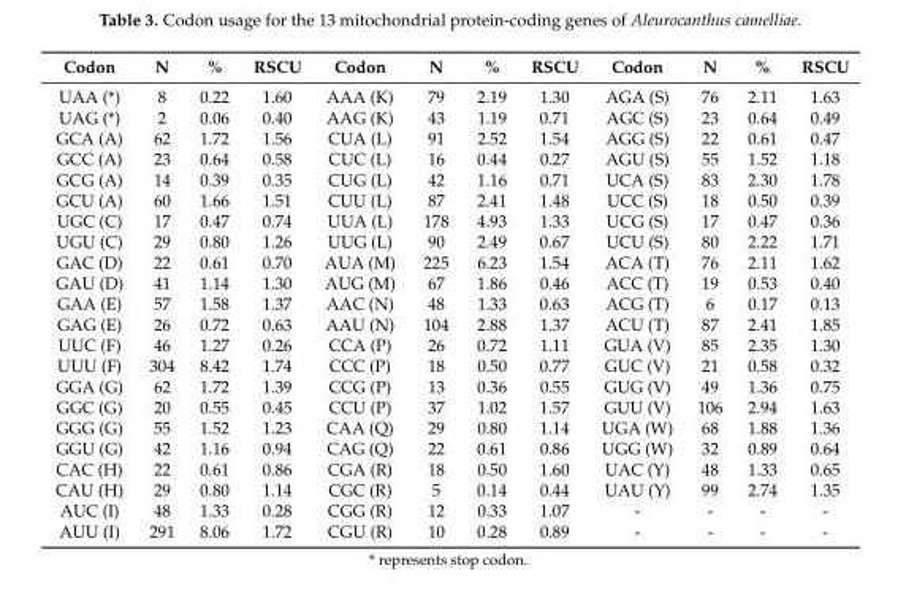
<table><thead><tr><td>Codon</td><td>N</td><td>%</td><td>RSCU</td><td>Codon</td><td>N</td><td>%</td><td>RSCU</td><td>Codon</td><td>N</td><td>%</td><td>RSCU</td></tr></thead><tbody><tr><td>UAA (*)</td><td>8</td><td>0.22</td><td>1.60</td><td>AAA (K)</td><td>79</td><td>2.19</td><td>1.30</td><td>AGA (S)</td><td>76</td><td>2.11</td><td>1.63</td></tr><tr><td>UAG (*)</td><td>2</td><td>0.06</td><td>0.40</td><td>AAG (K)</td><td>43</td><td>1.19</td><td>0.71</td><td>AGC (S)</td><td>23</td><td>0.64</td><td>0.49</td></tr><tr><td>GCA (A)</td><td>62</td><td>1.72</td><td>1.56</td><td>CUA (L)</td><td>91</td><td>2.52</td><td>1.54</td><td>AGG (S)</td><td>22</td><td>0.61</td><td>0.47</td></tr><tr><td>GCC (A)</td><td>23</td><td>0.64</td><td>0.58</td><td>CUC (L)</td><td>16</td><td>0.44</td><td>0.27</td><td>AGU (S)</td><td>55</td><td>1.52</td><td>1.18</td></tr><tr><td>GCG (A)</td><td>14</td><td>0.39</td><td>0.35</td><td>CUG (L)</td><td>42</td><td>1.16</td><td>0.71</td><td>UCA (S)</td><td>83</td><td>2.30</td><td>1.78</td></tr><tr><td>GCU (A)</td><td>60</td><td>1.66</td><td>1.51</td><td>CUU (L)</td><td>87</td><td>2.41</td><td>1.48</td><td>UCC (S)</td><td>18</td><td>0.50</td><td>0.39</td></tr><tr><td>UGC (C)</td><td>17</td><td>0.47</td><td>0.74</td><td>UUA (L)</td><td>178</td><td>4.93</td><td>1.33</td><td>UCG (S)</td><td>17</td><td>0.47</td><td>0.36</td></tr><tr><td>UGU (C)</td><td>29</td><td>0.80</td><td>1.26</td><td>UUG (L)</td><td>90</td><td>2.49</td><td>0.67</td><td>UCU (S)</td><td>80</td><td>2.22</td><td>1.71</td></tr><tr><td>GAC (D)</td><td>22</td><td>0.61</td><td>0.70</td><td>AUA (M)</td><td>225</td><td>6.23</td><td>1.54</td><td>ACA (T)</td><td>76</td><td>2.11</td><td>1.62</td></tr><tr><td>GAU (D)</td><td>41</td><td>1.14</td><td>1.30</td><td>AUG (M)</td><td>67</td><td>1.86</td><td>0.46</td><td>ACC (T)</td><td>19</td><td>0.53</td><td>0.40</td></tr><tr><td>GAA (E)</td><td>57</td><td>1.58</td><td>1.37</td><td>AAC (N)</td><td>48</td><td>1.33</td><td>0.63</td><td>ACG (T)</td><td>6</td><td>0.17</td><td>0.13</td></tr><tr><td>GAG (E)</td><td>26</td><td>0.72</td><td>0.63</td><td>AAU (N)</td><td>104</td><td>2.88</td><td>1.37</td><td>ACU (T)</td><td>87</td><td>2.41</td><td>1.85</td></tr><tr><td>UUC (F)</td><td>46</td><td>1.27</td><td>0.26</td><td>CCA (P)</td><td>26</td><td>0.72</td><td>1.11</td><td>GUA (V)</td><td>85</td><td>2.35</td><td>1.30</td></tr><tr><td>UUU (F)</td><td>304</td><td>8.42</td><td>1.74</td><td>CCC (P)</td><td>18</td><td>0.50</td><td>0.77</td><td>GUC (V)</td><td>21</td><td>0.58</td><td>0.32</td></tr><tr><td>GGA (G)</td><td>62</td><td>1.72</td><td>1.39</td><td>CCG (P)</td><td>13</td><td>0.36</td><td>0.55</td><td>GUG (V)</td><td>49</td><td>1.36</td><td>0.75</td></tr><tr><td>GGC (G)</td><td>20</td><td>0.55</td><td>0.45</td><td>CCU (P)</td><td>37</td><td>1.02</td><td>1.57</td><td>GUU (V)</td><td>106</td><td>2.94</td><td>1.63</td></tr><tr><td>GGG (G)</td><td>55</td><td>1.52</td><td>1.23</td><td>CAA (Q)</td><td>29</td><td>0.80</td><td>1.14</td><td>UGA (W)</td><td>68</td><td>1.88</td><td>1.36</td></tr><tr><td>GGU (G)</td><td>42</td><td>1.16</td><td>0.94</td><td>CAG (Q)</td><td>22</td><td>0.61</td><td>0.86</td><td>UGG (W)</td><td>32</td><td>0.89</td><td>0.64</td></tr><tr><td>CAC (H)</td><td>22</td><td>0.61</td><td>0.86</td><td>CGA (R)</td><td>18</td><td>0.50</td><td>1.60</td><td>UAC (Y)</td><td>48</td><td>1.33</td><td>0.65</td></tr><tr><td>CAU (H)</td><td>29</td><td>0.80</td><td>1.14</td><td>CGC (R)</td><td>5</td><td>0.14</td><td>0.44</td><td>UAU (Y)</td><td>99</td><td>2.74</td><td>1.35</td></tr><tr><td>AUC (I)</td><td>48</td><td>1.33</td><td>0.28</td><td>CGG (R)</td><td>12</td><td>0.33</td><td>1.07</td><td>-</td><td>-</td><td>-</td><td>-</td></tr><tr><td>AUU (I)</td><td>291</td><td>8.06</td><td>1.72</td><td>CGU (R)</td><td>10</td><td>0.28</td><td>0.89</td><td>-</td><td>-</td><td>-</td><td>-</td></tr></tbody></table>